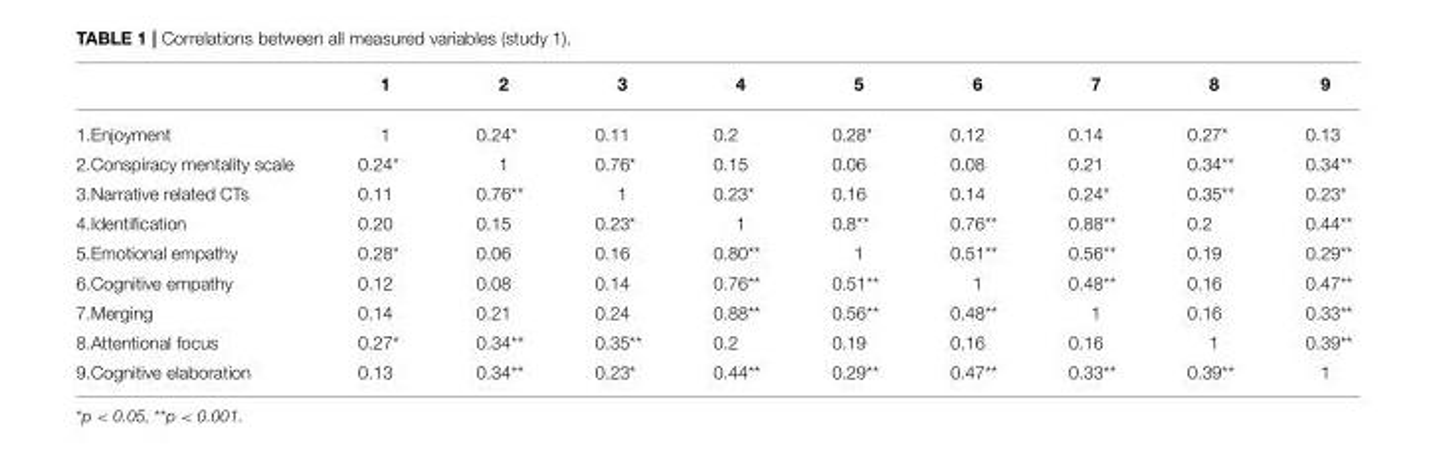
<table><thead><tr><td></td><td>1</td><td>2</td><td>3</td><td>4</td><td>5</td><td>6</td><td>7</td><td>8</td><td>9</td></tr></thead><tbody><tr><td>1.Enjoyment</td><td>1</td><td>0.24*</td><td>0.11</td><td>0.2</td><td>0.28*</td><td>0.12</td><td>0.14</td><td>0.27*</td><td>0.13</td></tr><tr><td>2.Conspiracy mentality scale</td><td>0.24*</td><td>1</td><td>0.76*</td><td>0.15</td><td>0.06</td><td>0.08</td><td>0.21</td><td>0.34**</td><td>0.34**</td></tr><tr><td>3.Narrative related CTs</td><td>0.11</td><td>0.76**</td><td>1</td><td>0.23*</td><td>0.16</td><td>0.14</td><td>0.24*</td><td>0.35**</td><td>0.23*</td></tr><tr><td>4.Identification</td><td>0.20</td><td>0.15</td><td>0.23*</td><td>1</td><td>0.8**</td><td>0.76**</td><td>0.88**</td><td>0.2</td><td>0.44**</td></tr><tr><td>5.Emotional empathy</td><td>0.28*</td><td>0.06</td><td>0.16</td><td>0.80**</td><td>1</td><td>0.51**</td><td>0.56**</td><td>0.19</td><td>0.29**</td></tr><tr><td>6.Cognitive empathy</td><td>0.12</td><td>0.08</td><td>0.14</td><td>0.76**</td><td>0.51**</td><td>1</td><td>0.48**</td><td>0.16</td><td>0.47**</td></tr><tr><td>7.Merging</td><td>0.14</td><td>0.21</td><td>0.24</td><td>0.88**</td><td>0.56**</td><td>0.48**</td><td>1</td><td>0.16</td><td>0.33**</td></tr><tr><td>8.Attentional focus</td><td>0.27*</td><td>0.34**</td><td>0.35**</td><td>0.2</td><td>0.19</td><td>0.16</td><td>0.16</td><td>1</td><td>0.39**</td></tr><tr><td>9.Cognitive elaboration</td><td>0.13</td><td>0.34**</td><td>0.23*</td><td>0.44**</td><td>0.29**</td><td>0.47**</td><td>0.33**</td><td>0.39**</td><td>1</td></tr></tbody></table>